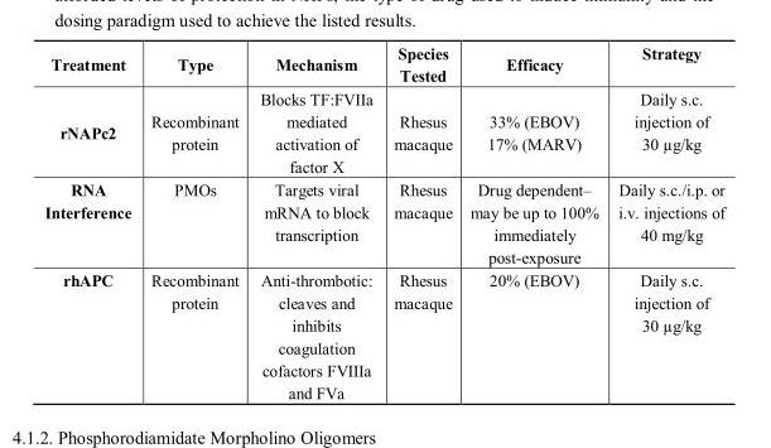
<table><thead><tr><td>Treatment</td><td>Type</td><td>Mechanism</td><td>Species Tested</td><td>Efficacy</td><td>Strategy</td></tr></thead><tbody><tr><td>rNAPc2</td><td>Recombinant protein</td><td>Blocks TF:FVIIa mediated activation of factor X</td><td>Rhesus macaque</td><td>33% (EBOV) 17% (MARV)</td><td>Daily s.c. injection of 30 µg/kg</td></tr><tr><td>RNA Interference</td><td>PMOs</td><td>Targets viral mRNA to block transcription</td><td>Rhesus macaque</td><td>Drug dependent– may be up to 100% immediately post-exposure</td><td>Daily s.c./i.p. or i.v. injections of 40 mg/kg</td></tr><tr><td>rhAPC</td><td>Recombinant protein</td><td>Anti-thrombotic: cleaves and inhibits coagulation cofactors FVIIIa and FVa</td><td>Rhesus macaque</td><td>20% (EBOV)</td><td>Daily s.c. injection of 30 µg/kg</td></tr></tbody></table>